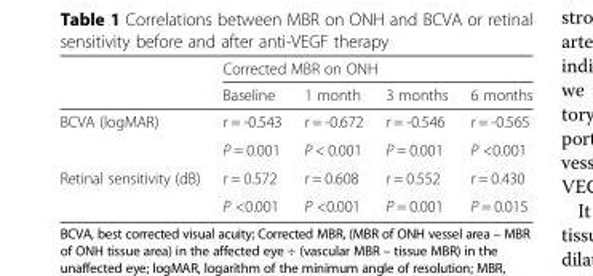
<table><thead><tr><td rowspan="2"></td><td colspan="4">Corrected MBR on ONH</td></tr><tr><td>Baseline</td><td>1 month</td><td>3 months</td><td>6 months</td></tr></thead><tbody><tr><td rowspan="2">BCVA (logMAR)</td><td>r = -0.543</td><td>r = -0.672</td><td>r = -0.546</td><td>r = -0.565</td></tr><tr><td>P = 0.001</td><td>P &lt; 0.001</td><td>P = 0.001</td><td>P &lt;0.001</td></tr><tr><td rowspan="2">Retinal sensitivity (dB)</td><td>r = 0.572</td><td>r = 0.608</td><td>r = 0.552</td><td>r = 0.430</td></tr><tr><td>P &lt;0.001</td><td>P &lt;0.001</td><td>P = 0.001</td><td>P = 0.015</td></tr></tbody></table>